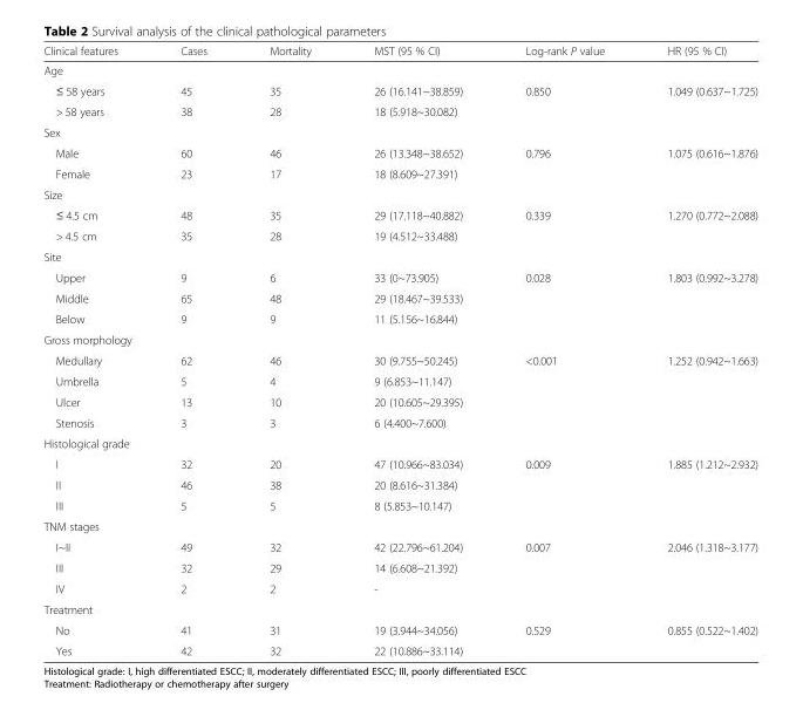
<table><thead><tr><td>Clinical features</td><td>Cases</td><td>Mortality</td><td>MST (95 % CI)</td><td>Log-rank P value</td><td>HR (95 % CI)</td></tr></thead><tbody><tr><td colspan="6">Age</td></tr><tr><td>≤ 58 years</td><td>45</td><td>35</td><td>26 (16.141~38.859)</td><td>0.850</td><td>1.049 (0.637~1.725)</td></tr><tr><td>&gt; 58 years</td><td>38</td><td>28</td><td>18 (5.918~30.082)</td><td></td><td></td></tr><tr><td colspan="6">Sex</td></tr><tr><td>Male</td><td>60</td><td>46</td><td>26 (13.348~38.652)</td><td>0.796</td><td>1.075 (0.616~1.876)</td></tr><tr><td>Female</td><td>23</td><td>17</td><td>18 (8.609~27.391)</td><td></td><td></td></tr><tr><td colspan="6">Size</td></tr><tr><td>≤ 4.5 cm</td><td>48</td><td>35</td><td>29 (17.118~40.882)</td><td>0.339</td><td>1.270 (0.772~2.088)</td></tr><tr><td>&gt; 4.5 cm</td><td>35</td><td>28</td><td>19 (4.512~33.488)</td><td></td><td></td></tr><tr><td colspan="6">Site</td></tr><tr><td>Upper</td><td>9</td><td>6</td><td>33 (0~73.905)</td><td>0.028</td><td>1.803 (0.992~3.278)</td></tr><tr><td>Middle</td><td>65</td><td>48</td><td>29 (18.467~39.533)</td><td></td><td></td></tr><tr><td>Below</td><td>9</td><td>9</td><td>11 (5.156~16.844)</td><td></td><td></td></tr><tr><td colspan="6">Gross morphology</td></tr><tr><td>Medullary</td><td>62</td><td>46</td><td>30 (9.755~50.245)</td><td>&lt;0.001</td><td>1.252 (0.942~1.663)</td></tr><tr><td>Umbrella</td><td>5</td><td>4</td><td>9 (6.853~11.147)</td><td></td><td></td></tr><tr><td>Ulcer</td><td>13</td><td>10</td><td>20 (10.605~29.395)</td><td></td><td></td></tr><tr><td>Stenosis</td><td>3</td><td>3</td><td>6 (4.400~7.600)</td><td></td><td></td></tr><tr><td colspan="6">Histological grade</td></tr><tr><td>I</td><td>32</td><td>20</td><td>47 (10.966~83.034)</td><td>0.009</td><td>1.885 (1.212~2.932)</td></tr><tr><td>II</td><td>46</td><td>38</td><td>20 (8.616~31.384)</td><td></td><td></td></tr><tr><td>III</td><td>5</td><td>5</td><td>8 (5.853~10.147)</td><td></td><td></td></tr><tr><td colspan="6">TNM stages</td></tr><tr><td>I~II</td><td>49</td><td>32</td><td>42 (22.796~61.204)</td><td>0.007</td><td>2.046 (1.318~3.177)</td></tr><tr><td>III</td><td>32</td><td>29</td><td>14 (6.608~21.392)</td><td></td><td></td></tr><tr><td>IV</td><td>2</td><td>2</td><td>-</td><td></td><td></td></tr><tr><td colspan="6">Treatment</td></tr><tr><td>No</td><td>41</td><td>31</td><td>19 (3.944~34.056)</td><td>0.529</td><td>0.855 (0.522~1.402)</td></tr><tr><td>Yes</td><td>42</td><td>32</td><td>22 (10.886~33.114)</td><td></td><td></td></tr></tbody></table>